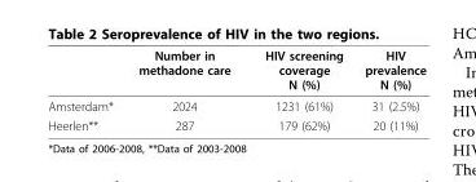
<table><thead><tr><td></td><td>Number in methadone care</td><td>HIV screening coverage N (%)</td><td>HIV prevalence N (%)</td></tr></thead><tbody><tr><td>Amsterdam*</td><td>2024</td><td>1231 (61%)</td><td>31 (2.5%)</td></tr><tr><td>Heerlen**</td><td>287</td><td>179 (62%)</td><td>20 (11%)</td></tr></tbody></table>